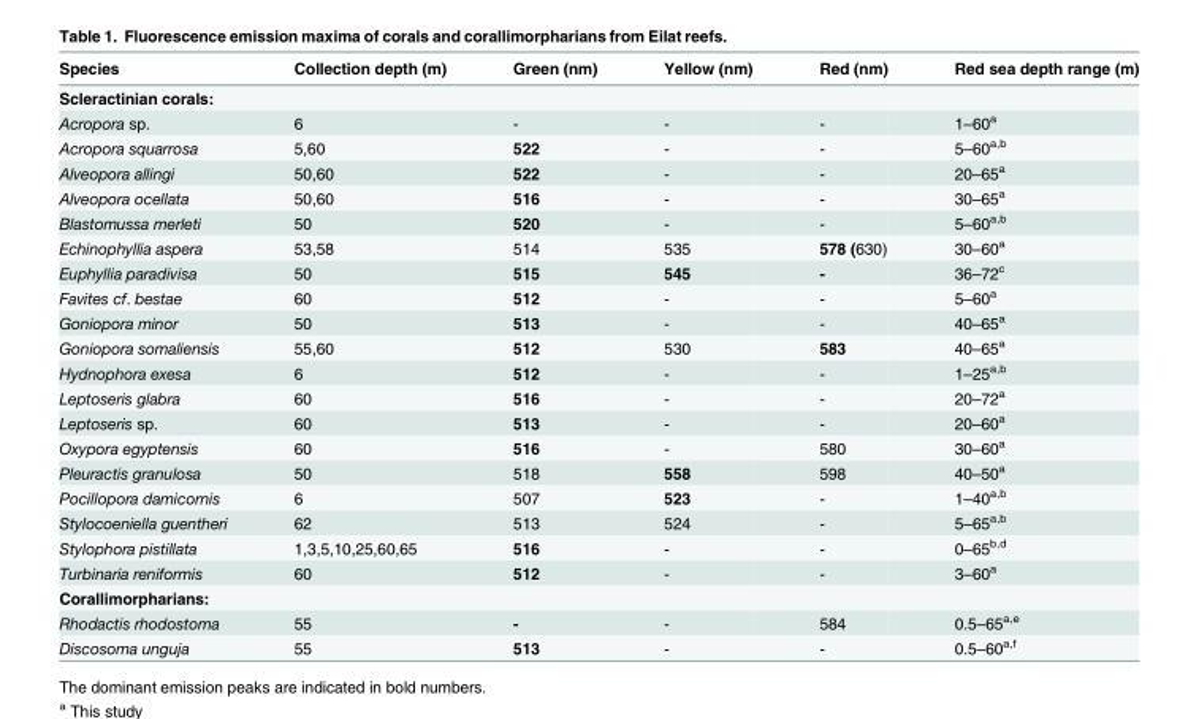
<table><thead><tr><td>Species</td><td>Collection depth (m)</td><td>Green (nm)</td><td>Yellow (nm)</td><td>Red (nm)</td><td>Red sea depth range (m)</td></tr></thead><tbody><tr><td colspan="6">Scleractinian corals:</td></tr><tr><td>Acropora sp.</td><td>6</td><td>-</td><td>-</td><td>-</td><td>1–60<sup>a</sup></td></tr><tr><td>Acropora squarrosa</td><td>5,60</td><td>522</td><td>-</td><td>-</td><td>5–60<sup>a,b</sup></td></tr><tr><td>Alveopora allingi</td><td>50,60</td><td>522</td><td>-</td><td>-</td><td>20–65<sup>a</sup></td></tr><tr><td>Alveopora ocellata</td><td>50,60</td><td>516</td><td>-</td><td>-</td><td>30–65<sup>a</sup></td></tr><tr><td>Blastomussa merleti</td><td>50</td><td>520</td><td>-</td><td>-</td><td>5–60<sup>a,b</sup></td></tr><tr><td>Echinophyllia aspera</td><td>53,58</td><td>514</td><td>535</td><td>578 (630)</td><td>30–60<sup>a</sup></td></tr><tr><td>Euphyllia paradivisa</td><td>50</td><td>515</td><td>545</td><td>-</td><td>36–72<sup>c</sup></td></tr><tr><td>Favites cf. bestae</td><td>60</td><td>512</td><td>-</td><td>-</td><td>5–60<sup>a</sup></td></tr><tr><td>Goniopora minor</td><td>50</td><td>513</td><td>-</td><td>-</td><td>40–65<sup>a</sup></td></tr><tr><td>Goniopora somaliensis</td><td>55,60</td><td>512</td><td>530</td><td>583</td><td>40–65<sup>a</sup></td></tr><tr><td>Hydnophora exesa</td><td>6</td><td>512</td><td>-</td><td>-</td><td>1–25<sup>a,b</sup></td></tr><tr><td>Leptoseris glabra</td><td>60</td><td>516</td><td>-</td><td>-</td><td>20–72<sup>a</sup></td></tr><tr><td>Leptoseris sp.</td><td>60</td><td>513</td><td>-</td><td>-</td><td>20–60<sup>a</sup></td></tr><tr><td>Oxypora egyptensis</td><td>60</td><td>516</td><td>-</td><td>580</td><td>30–60<sup>a</sup></td></tr><tr><td>Pleuractis granulosa</td><td>50</td><td>518</td><td>558</td><td>598</td><td>40–50<sup>a</sup></td></tr><tr><td>Pocillopora damicornis</td><td>6</td><td>507</td><td>523</td><td>-</td><td>1–40<sup>a,b</sup></td></tr><tr><td>Stylocoeniella guentheri</td><td>62</td><td>513</td><td>524</td><td>-</td><td>5–65<sup>a,b</sup></td></tr><tr><td>Stylophora pistillata</td><td>1,3,5,10,25,60,65</td><td>516</td><td>-</td><td>-</td><td>0–65<sup>b,d</sup></td></tr><tr><td>Turbinaria reniformis</td><td>60</td><td>512</td><td>-</td><td>-</td><td>3–60<sup>a</sup></td></tr><tr><td colspan="6">Corallimorpharians:</td></tr><tr><td>Rhodactis rhodostoma</td><td>55</td><td>-</td><td>-</td><td>584</td><td>0.5–65<sup>a,e</sup></td></tr><tr><td>Discosoma unguja</td><td>55</td><td>513</td><td>-</td><td>-</td><td>0.5–60<sup>a,f</sup></td></tr></tbody></table>